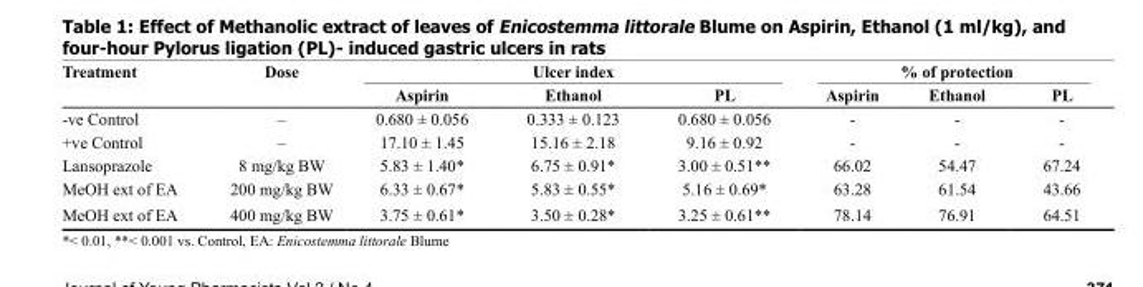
<table><thead><tr><td rowspan="2">Treatment</td><td rowspan="2">Dose</td><td colspan="3">Ulcer index</td><td colspan="3">% of protection</td></tr><tr><td>Aspirin</td><td>Ethanol</td><td>PL</td><td>Aspirin</td><td>Ethanol</td><td>PL</td></tr></thead><tbody><tr><td>-ve Control</td><td>–</td><td>0.680 ± 0.056</td><td>0.333 ± 0.123</td><td>0.680 ± 0.056</td><td>-</td><td>-</td><td>-</td></tr><tr><td>+ve Control</td><td>–</td><td>17.10 ± 1.45</td><td>15.16 ± 2.18</td><td>9.16 ± 0.92</td><td>-</td><td>-</td><td>-</td></tr><tr><td>Lansoprazole</td><td>8 mg/kg BW</td><td>5.83 ± 1.40*</td><td>6.75 ± 0.91*</td><td>3.00 ± 0.51**</td><td>66.02</td><td>54.47</td><td>67.24</td></tr><tr><td>MeOH ext of EA</td><td>200 mg/kg BW</td><td>6.33 ± 0.67*</td><td>5.83 ± 0.55*</td><td>5.16 ± 0.69*</td><td>63.28</td><td>61.54</td><td>43.66</td></tr><tr><td>MeOH ext of EA</td><td>400 mg/kg BW</td><td>3.75 ± 0.61*</td><td>3.50 ± 0.28*</td><td>3.25 ± 0.61**</td><td>78.14</td><td>76.91</td><td>64.51</td></tr></tbody></table>